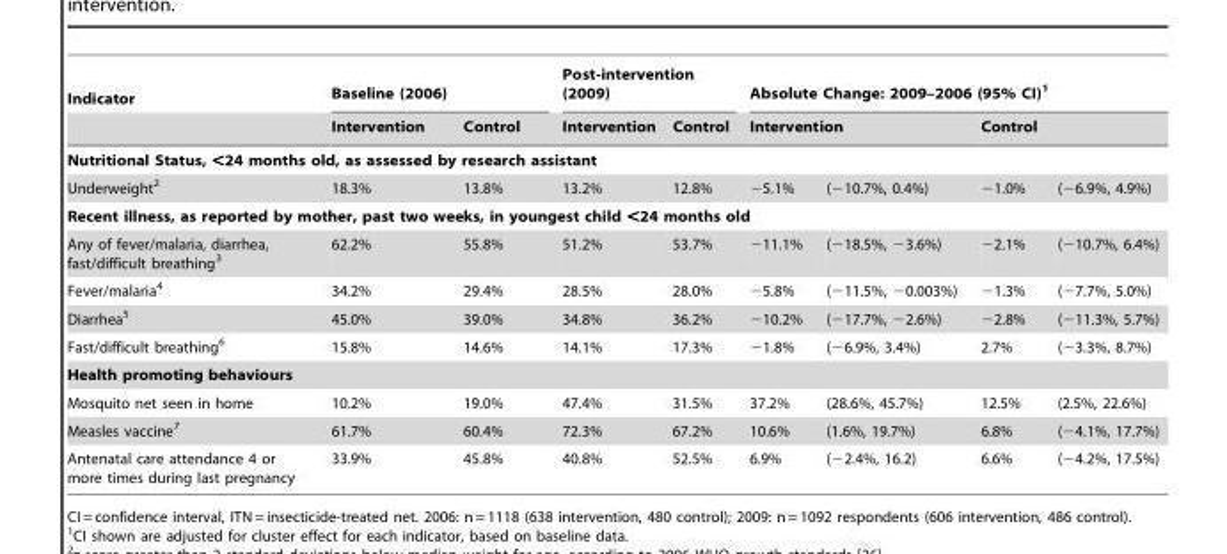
<table><thead><tr><td rowspan="2">Indicator</td><td colspan="2">Baseline (2006)</td><td colspan="2">Post-intervention (2009)</td><td colspan="4">Absolute Change: 2009–2006 (95% CI)<sup>1</sup></td></tr><tr><td>Intervention</td><td>Control</td><td>Intervention</td><td>Control</td><td colspan="2">Intervention</td><td colspan="2">Control</td></tr><tr><td colspan="9">Nutritional Status, &lt;24 months old, as assessed by research assistant</td></tr><tr><td>Underweight<sup>2</sup></td><td>18.3%</td><td>13.8%</td><td>13.2%</td><td>12.8%</td><td>−5.1%</td><td>(−10.7%, 0.4%)</td><td>−1.0%</td><td>(−6.9%, 4.9%)</td></tr></thead><tbody><tr><td colspan="9">Recent illness, as reported by mother, past two weeks, in youngest child &lt;24 months old</td></tr><tr><td>Any of fever/malaria, diarrhea, fast/difficult breathing<sup>3</sup></td><td>62.2%</td><td>55.8%</td><td>51.2%</td><td>53.7%</td><td>−11.1%</td><td>(−18.5%, −3.6%)</td><td>−2.1%</td><td>(−10.7%, 6.4%)</td></tr><tr><td>Fever/malaria<sup>4</sup></td><td>34.2%</td><td>29.4%</td><td>28.5%</td><td>28.0%</td><td>−5.8%</td><td>(−11.5%, −0.003%)</td><td>−1.3%</td><td>(−7.7%, 5.0%)</td></tr><tr><td>Diarrhea<sup>5</sup></td><td>45.0%</td><td>39.0%</td><td>34.8%</td><td>36.2%</td><td>−10.2%</td><td>(−17.7%, −2.6%)</td><td>−2.8%</td><td>(−11.3%, 5.7%)</td></tr><tr><td>Fast/difficult breathing<sup>6</sup></td><td>15.8%</td><td>14.6%</td><td>14.1%</td><td>17.3%</td><td>−1.8%</td><td>(−6.9%, 3.4%)</td><td>2.7%</td><td>(−3.3%, 8.7%)</td></tr><tr><td colspan="9">Health promoting behaviours</td></tr><tr><td>Mosquito net seen in home</td><td>10.2%</td><td>19.0%</td><td>47.4%</td><td>31.5%</td><td>37.2%</td><td>(28.6%, 45.7%)</td><td>12.5%</td><td>(2.5%, 22.6%)</td></tr><tr><td>Measles vaccine<sup>7</sup></td><td>61.7%</td><td>60.4%</td><td>72.3%</td><td>67.2%</td><td>10.6%</td><td>(1.6%, 19.7%)</td><td>6.8%</td><td>(−4.1%, 17.7%)</td></tr><tr><td>Antenatal care attendance 4 or more times during last pregnancy</td><td>33.9%</td><td>45.8%</td><td>40.8%</td><td>52.5%</td><td>6.9%</td><td>(−2.4%, 16.2)</td><td>6.6%</td><td>(−4.2%, 17.5%)</td></tr></tbody></table>